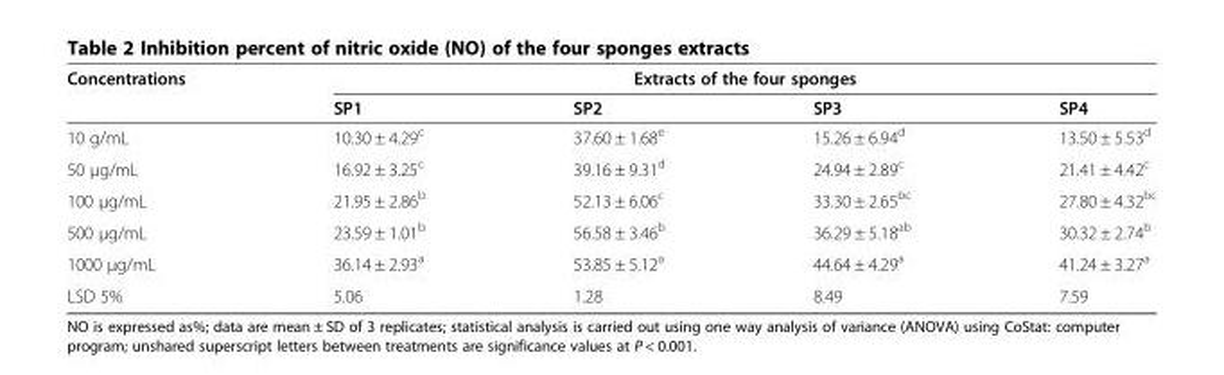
<table><thead><tr><td rowspan="2">Concentrations</td><td colspan="4">Extracts of the four sponges</td></tr><tr><td>SP1</td><td>SP2</td><td>SP3</td><td>SP4</td></tr></thead><tbody><tr><td>10 g/mL</td><td>10.30 ± 4.29<sup>c</sup></td><td>37.60 ± 1.68<sup>e</sup></td><td>15.26 ± 6.94<sup>d</sup></td><td>13.50 ± 5.53<sup>d</sup></td></tr><tr><td>50 μg/mL</td><td>16.92 ± 3.25<sup>c</sup></td><td>39.16 ± 9.31<sup>d</sup></td><td>24.94 ± 2.89<sup>c</sup></td><td>21.41 ± 4.42<sup>c</sup></td></tr><tr><td>100 μg/mL</td><td>21.95 ± 2.86<sup>b</sup></td><td>52.13 ± 6.06<sup>c</sup></td><td>33.30 ± 2.65<sup>bc</sup></td><td>27.80 ± 4.32<sup>bc</sup></td></tr><tr><td>500 μg/mL</td><td>23.59 ± 1.01<sup>b</sup></td><td>56.58 ± 3.46<sup>b</sup></td><td>36.29 ± 5.18<sup>ab</sup></td><td>30.32 ± 2.74<sup>b</sup></td></tr><tr><td>1000 μg/mL</td><td>36.14 ± 2.93<sup>a</sup></td><td>53.85 ± 5.12<sup>a</sup></td><td>44.64 ± 4.29<sup>a</sup></td><td>41.24 ± 3.27<sup>a</sup></td></tr><tr><td>LSD 5%</td><td>5.06</td><td>1.28</td><td>8.49</td><td>7.59</td></tr></tbody></table>